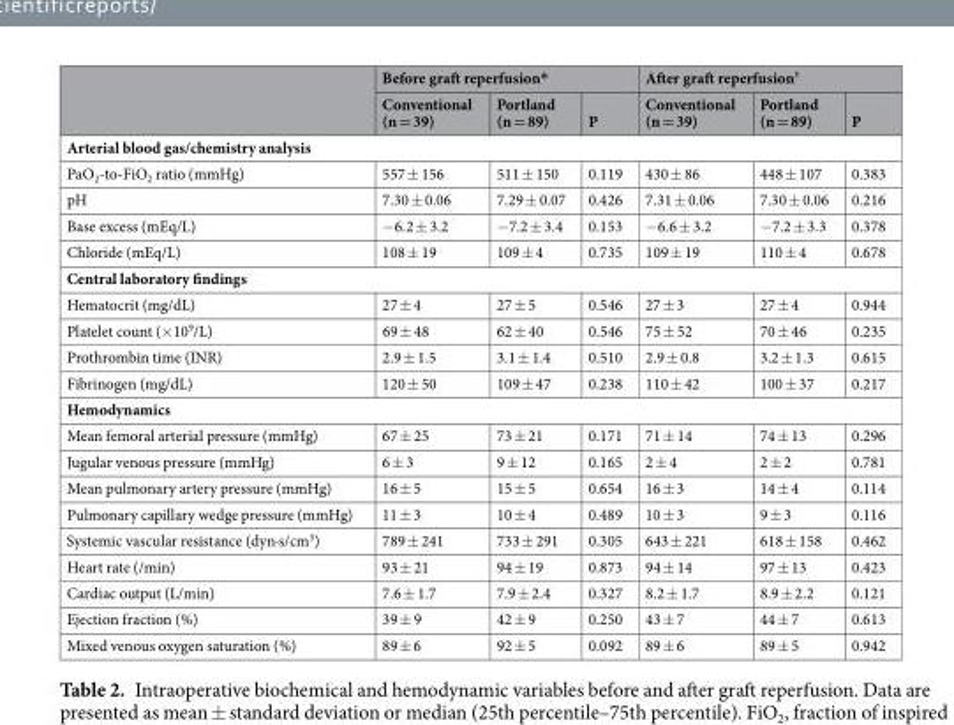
<table><thead><tr><td rowspan="2"></td><td colspan="3">Before graft reperfusion*</td><td colspan="3">After graft reperfusion<sup>†</sup></td></tr><tr><td>Conventional (n = 39)</td><td>Portland (n = 89)</td><td>P</td><td>Conventional (n = 39)</td><td>Portland (n = 89)</td><td>P</td></tr></thead><tbody><tr><td colspan="7">Arterial blood gas/chemistry analysis</td></tr><tr><td>PaO<sub>2</sub>-to-FiO<sub>2</sub> ratio (mmHg)</td><td>557 ± 156</td><td>511 ± 150</td><td>0.119</td><td>430 ± 86</td><td>448 ± 107</td><td>0.383</td></tr><tr><td>pH</td><td>7.30 ± 0.06</td><td>7.29 ± 0.07</td><td>0.426</td><td>7.31 ± 0.06</td><td>7.30 ± 0.06</td><td>0.216</td></tr><tr><td>Base excess (mEq/L)</td><td>−6.2 ± 3.2</td><td>−7.2 ± 3.4</td><td>0.153</td><td>−6.6 ± 3.2</td><td>−7.2 ± 3.3</td><td>0.378</td></tr><tr><td>Chloride (mEq/L)</td><td>108 ± 19</td><td>109 ± 4</td><td>0.735</td><td>109 ± 19</td><td>110 ± 4</td><td>0.678</td></tr><tr><td colspan="7">Central laboratory findings</td></tr><tr><td>Hematocrit (mg/dL)</td><td>27 ± 4</td><td>27 ± 5</td><td>0.546</td><td>27 ± 3</td><td>27 ± 4</td><td>0.944</td></tr><tr><td>Platelet count (×10<sup>9</sup>/L)</td><td>69 ± 48</td><td>62 ± 40</td><td>0.546</td><td>75 ± 52</td><td>70 ± 46</td><td>0.235</td></tr><tr><td>Prothrombin time (INR)</td><td>2.9 ± 1.5</td><td>3.1 ± 1.4</td><td>0.510</td><td>2.9 ± 0.8</td><td>3.2 ± 1.3</td><td>0.615</td></tr><tr><td>Fibrinogen (mg/dL)</td><td>120 ± 50</td><td>109 ± 47</td><td>0.238</td><td>110 ± 42</td><td>100 ± 37</td><td>0.217</td></tr><tr><td colspan="7">Hemodynamics</td></tr><tr><td>Mean femoral arterial pressure (mmHg)</td><td>67 ± 25</td><td>73 ± 21</td><td>0.171</td><td>71 ± 14</td><td>74 ± 13</td><td>0.296</td></tr><tr><td>Jugular venous pressure (mmHg)</td><td>6 ± 3</td><td>9 ± 12</td><td>0.165</td><td>2 ± 4</td><td>2 ± 2</td><td>0.781</td></tr><tr><td>Mean pulmonary artery pressure (mmHg)</td><td>16 ± 5</td><td>15 ± 5</td><td>0.654</td><td>16 ± 3</td><td>14 ± 4</td><td>0.114</td></tr><tr><td>Pulmonary capillary wedge pressure (mmHg)</td><td>11 ± 3</td><td>10 ± 4</td><td>0.489</td><td>10 ± 3</td><td>9 ± 3</td><td>0.116</td></tr><tr><td>Systemic vascular resistance (dyn·s/cm<sup>5</sup>)</td><td>789 ± 241</td><td>733 ± 291</td><td>0.305</td><td>643 ± 221</td><td>618 ± 158</td><td>0.462</td></tr><tr><td>Heart rate (/min)</td><td>93 ± 21</td><td>94 ± 19</td><td>0.873</td><td>94 ± 14</td><td>97 ± 13</td><td>0.423</td></tr><tr><td>Cardiac output (L/min)</td><td>7.6 ± 1.7</td><td>7.9 ± 2.4</td><td>0.327</td><td>8.2 ± 1.7</td><td>8.9 ± 2.2</td><td>0.121</td></tr><tr><td>Ejection fraction (%)</td><td>39 ± 9</td><td>42 ± 9</td><td>0.250</td><td>43 ± 7</td><td>44 ± 7</td><td>0.613</td></tr><tr><td>Mixed venous oxygen saturation (%)</td><td>89 ± 6</td><td>92 ± 5</td><td>0.092</td><td>89 ± 6</td><td>89 ± 5</td><td>0.942</td></tr></tbody></table>